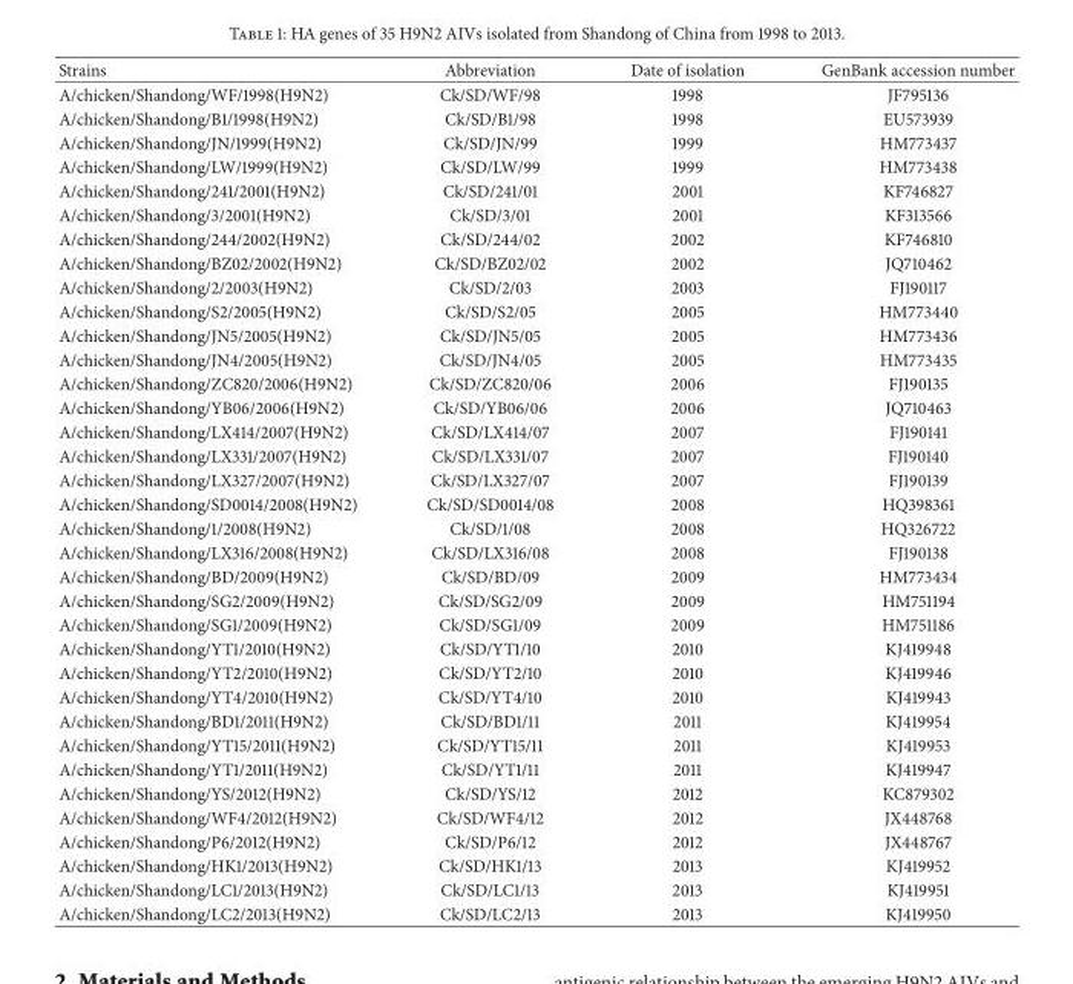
<table><thead><tr><td>Strains</td><td>Abbreviation</td><td>Date of isolation</td><td>GenBank accession number</td></tr></thead><tbody><tr><td>A/chicken/Shandong/WF/1998(H9N2)</td><td>Ck/SD/WF/98</td><td>1998</td><td>JF795136</td></tr><tr><td>A/chicken/Shandong/B1/1998(H9N2)</td><td>Ck/SD/B1/98</td><td>1998</td><td>EU573939</td></tr><tr><td>A/chicken/Shandong/JN/1999(H9N2)</td><td>Ck/SD/JN/99</td><td>1999</td><td>HM773437</td></tr><tr><td>A/chicken/Shandong/LW/1999(H9N2)</td><td>Ck/SD/LW/99</td><td>1999</td><td>HM773438</td></tr><tr><td>A/chicken/Shandong/241/2001(H9N2)</td><td>Ck/SD/241/01</td><td>2001</td><td>KF746827</td></tr><tr><td>A/chicken/Shandong/3/2001(H9N2)</td><td>Ck/SD/3/01</td><td>2001</td><td>KF313566</td></tr><tr><td>A/chicken/Shandong/244/2002(H9N2)</td><td>Ck/SD/244/02</td><td>2002</td><td>KF746810</td></tr><tr><td>A/chicken/Shandong/BZ02/2002(H9N2)</td><td>Ck/SD/BZ02/02</td><td>2002</td><td>JQ710462</td></tr><tr><td>A/chicken/Shandong/2/2003(H9N2)</td><td>Ck/SD/2/03</td><td>2003</td><td>FJ190117</td></tr><tr><td>A/chicken/Shandong/S2/2005(H9N2)</td><td>Ck/SD/S2/05</td><td>2005</td><td>HM773440</td></tr><tr><td>A/chicken/Shandong/JN5/2005(H9N2)</td><td>Ck/SD/JN5/05</td><td>2005</td><td>HM773436</td></tr><tr><td>A/chicken/Shandong/JN4/2005(H9N2)</td><td>Ck/SD/JN4/05</td><td>2005</td><td>HM773435</td></tr><tr><td>A/chicken/Shandong/ZC820/2006(H9N2)</td><td>Ck/SD/ZC820/06</td><td>2006</td><td>FJ190135</td></tr><tr><td>A/chicken/Shandong/YB06/2006(H9N2)</td><td>Ck/SD/YB06/06</td><td>2006</td><td>JQ710463</td></tr><tr><td>A/chicken/Shandong/LX414/2007(H9N2)</td><td>Ck/SD/LX414/07</td><td>2007</td><td>FJ190141</td></tr><tr><td>A/chicken/Shandong/LX331/2007(H9N2)</td><td>Ck/SD/LX331/07</td><td>2007</td><td>FJ190140</td></tr><tr><td>A/chicken/Shandong/LX327/2007(H9N2)</td><td>Ck/SD/LX327/07</td><td>2007</td><td>FJ190139</td></tr><tr><td>A/chicken/Shandong/SD0014/2008(H9N2)</td><td>Ck/SD/SD0014/08</td><td>2008</td><td>HQ398361</td></tr><tr><td>A/chicken/Shandong/1/2008(H9N2)</td><td>Ck/SD/1/08</td><td>2008</td><td>HQ326722</td></tr><tr><td>A/chicken/Shandong/LX316/2008(H9N2)</td><td>Ck/SD/LX316/08</td><td>2008</td><td>FJ190138</td></tr><tr><td>A/chicken/Shandong/BD/2009(H9N2)</td><td>Ck/SD/BD/09</td><td>2009</td><td>HM773434</td></tr><tr><td>A/chicken/Shandong/SG2/2009(H9N2)</td><td>Ck/SD/SG2/09</td><td>2009</td><td>HM751194</td></tr><tr><td>A/chicken/Shandong/SG1/2009(H9N2)</td><td>Ck/SD/SG1/09</td><td>2009</td><td>HM751186</td></tr><tr><td>A/chicken/Shandong/YT1/2010(H9N2)</td><td>Ck/SD/YT1/10</td><td>2010</td><td>KJ419948</td></tr><tr><td>A/chicken/Shandong/YT2/2010(H9N2)</td><td>Ck/SD/YT2/10</td><td>2010</td><td>KJ419946</td></tr><tr><td>A/chicken/Shandong/YT4/2010(H9N2)</td><td>Ck/SD/YT4/10</td><td>2010</td><td>KJ419943</td></tr><tr><td>A/chicken/Shandong/BD1/2011(H9N2)</td><td>Ck/SD/BD1/11</td><td>2011</td><td>KJ419954</td></tr><tr><td>A/chicken/Shandong/YT15/2011(H9N2)</td><td>Ck/SD/YT15/11</td><td>2011</td><td>KJ419953</td></tr><tr><td>A/chicken/Shandong/YT1/2011(H9N2)</td><td>Ck/SD/YT1/11</td><td>2011</td><td>KJ419947</td></tr><tr><td>A/chicken/Shandong/YS/2012(H9N2)</td><td>Ck/SD/YS/12</td><td>2012</td><td>KC879302</td></tr><tr><td>A/chicken/Shandong/WF4/2012(H9N2)</td><td>Ck/SD/WF4/12</td><td>2012</td><td>JX448768</td></tr><tr><td>A/chicken/Shandong/P6/2012(H9N2)</td><td>Ck/SD/P6/12</td><td>2012</td><td>JX448767</td></tr><tr><td>A/chicken/Shandong/HK1/2013(H9N2)</td><td>Ck/SD/HK1/13</td><td>2013</td><td>KJ419952</td></tr><tr><td>A/chicken/Shandong/LC1/2013(H9N2)</td><td>Ck/SD/LC1/13</td><td>2013</td><td>KJ419951</td></tr><tr><td>A/chicken/Shandong/LC2/2013(H9N2)</td><td>Ck/SD/LC2/13</td><td>2013</td><td>KJ419950</td></tr></tbody></table>